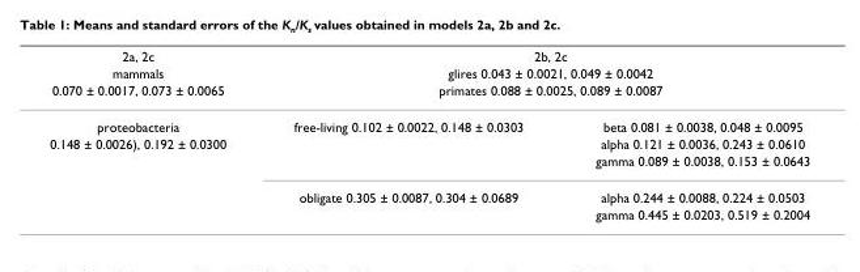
<table><thead><tr><td rowspan="4">2a, 2c mammals 0.070 ± 0.0017, 0.073 ± 0.0065 proteobacteria</td><td rowspan="3" colspan="2">2b, 2c glires 0.043 ± 0.0021, 0.049 ± 0.0042 primates 0.088 ± 0.0025, 0.089 ± 0.0087</td></tr><tr></tr><tr></tr><tr><td>free-living 0.102 ± 0.0022, 0.148 ± 0.0303</td><td>beta 0.081 ± 0.0038, 0.048 ± 0.0095</td></tr></thead><tbody><tr><td rowspan="4">0.148 ± 0.0026), 0.192 ± 0.0300</td><td></td><td>alpha 0.121 ± 0.0036, 0.243 ± 0.0610</td></tr><tr><td></td><td>gamma 0.089 ± 0.0038, 0.153 ± 0.0643</td></tr><tr><td>obligate 0.305 ± 0.0087, 0.304 ± 0.0689</td><td>alpha 0.244 ± 0.0088, 0.224 ± 0.0503</td></tr><tr><td></td><td>gamma 0.445 ± 0.0203, 0.519 ± 0.2004</td></tr></tbody></table>